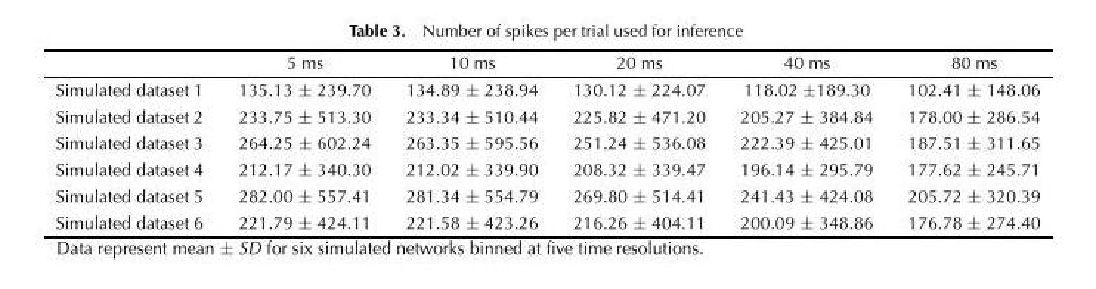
<table><thead><tr><td></td><td>5 ms</td><td>10 ms</td><td>20 ms</td><td>40 ms</td><td>80 ms</td></tr></thead><tbody><tr><td>Simulated dataset 1</td><td>135.13 ± 239.70</td><td>134.89 ± 238.94</td><td>130.12 ± 224.07</td><td>118.02 ±189.30</td><td>102.41 ± 148.06</td></tr><tr><td>Simulated dataset 2</td><td>233.75 ± 513.30</td><td>233.34 ± 510.44</td><td>225.82 ± 471.20</td><td>205.27 ± 384.84</td><td>178.00 ± 286.54</td></tr><tr><td>Simulated dataset 3</td><td>264.25 ± 602.24</td><td>263.35 ± 595.56</td><td>251.24 ± 536.08</td><td>222.39 ± 425.01</td><td>187.51 ± 311.65</td></tr><tr><td>Simulated dataset 4</td><td>212.17 ± 340.30</td><td>212.02 ± 339.90</td><td>208.32 ± 339.47</td><td>196.14 ± 295.79</td><td>177.62 ± 245.71</td></tr><tr><td>Simulated dataset 5</td><td>282.00 ± 557.41</td><td>281.34 ± 554.79</td><td>269.80 ± 514.41</td><td>241.43 ± 424.08</td><td>205.72 ± 320.39</td></tr><tr><td>Simulated dataset 6</td><td>221.79 ± 424.11</td><td>221.58 ± 423.26</td><td>216.26 ± 404.11</td><td>200.09 ± 348.86</td><td>176.78 ± 274.40</td></tr></tbody></table>